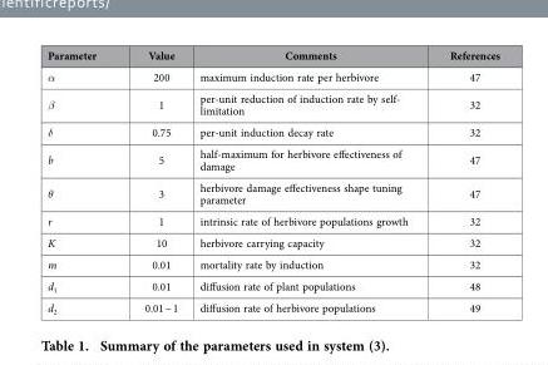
<table><thead><tr><td>Parameter</td><td>Value</td><td>Comments</td><td>References</td></tr></thead><tbody><tr><td>α</td><td>200</td><td>maximum induction rate per herbivore</td><td>47</td></tr><tr><td>β</td><td>1</td><td>per-unit reduction of induction rate by self- limitation</td><td>32</td></tr><tr><td>δ</td><td>0.75</td><td>per-unit induction decay rate</td><td>32</td></tr><tr><td>b</td><td>5</td><td>half-maximum for herbivore effectiveness of damage</td><td>47</td></tr><tr><td>θ</td><td>3</td><td>herbivore damage effectiveness shape tuning parameter</td><td>47</td></tr><tr><td>r</td><td>1</td><td>intrinsic rate of herbivore populations growth</td><td>32</td></tr><tr><td>K</td><td>10</td><td>herbivore carrying capacity</td><td>32</td></tr><tr><td>m</td><td>0.01</td><td>mortality rate by induction</td><td>32</td></tr><tr><td>d<sub>1</sub></td><td>0.01</td><td>diffusion rate of plant populations</td><td>48</td></tr><tr><td>d<sub>2</sub></td><td>0.01 ~ 1</td><td>diffusion rate of herbivore populations</td><td>49</td></tr></tbody></table>